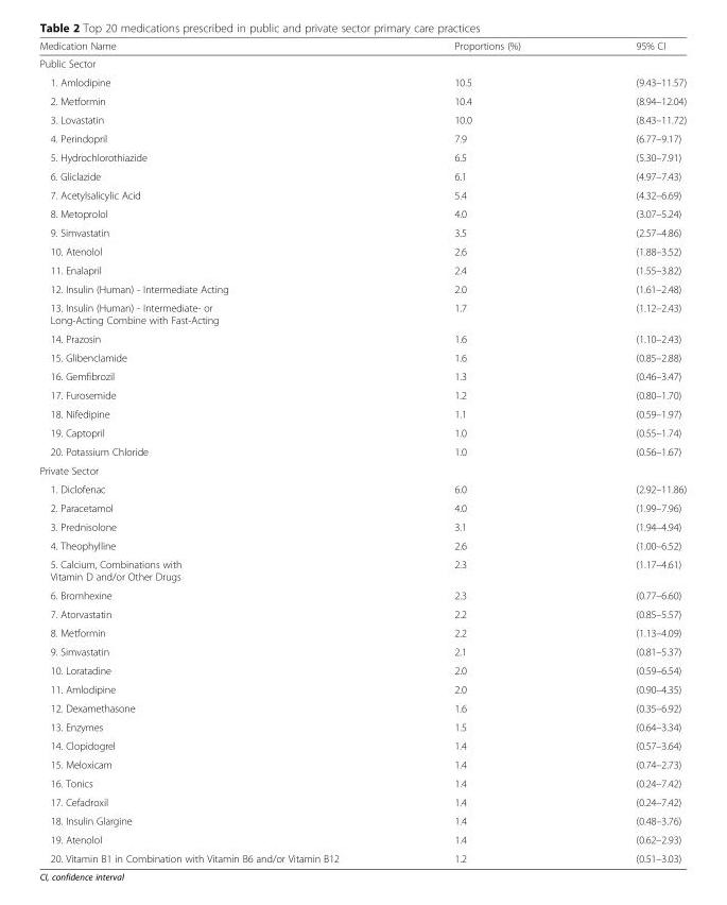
<table><thead><tr><td>Medication Name</td><td>Proportions (%)</td><td>95% CI</td></tr></thead><tbody><tr><td colspan="3">Public Sector</td></tr><tr><td>1. Amlodipine</td><td>10.5</td><td>(9.43–11.57)</td></tr><tr><td>2. Metformin</td><td>10.4</td><td>(8.94–12.04)</td></tr><tr><td>3. Lovastatin</td><td>10.0</td><td>(8.43–11.72)</td></tr><tr><td>4. Perindopril</td><td>7.9</td><td>(6.77–9.17)</td></tr><tr><td>5. Hydrochlorothiazide</td><td>6.5</td><td>(5.30–7.91)</td></tr><tr><td>6. Gliclazide</td><td>6.1</td><td>(4.97–7.43)</td></tr><tr><td>7. Acetylsalicylic Acid</td><td>5.4</td><td>(4.32–6.69)</td></tr><tr><td>8. Metoprolol</td><td>4.0</td><td>(3.07–5.24)</td></tr><tr><td>9. Simvastatin</td><td>3.5</td><td>(2.57–4.86)</td></tr><tr><td>10. Atenolol</td><td>2.6</td><td>(1.88–3.52)</td></tr><tr><td>11. Enalapril</td><td>2.4</td><td>(1.55–3.82)</td></tr><tr><td>12. Insulin (Human) - Intermediate Acting</td><td>2.0</td><td>(1.61–2.48)</td></tr><tr><td>13. Insulin (Human) - Intermediate- or Long-Acting Combine with Fast-Acting</td><td>1.7</td><td>(1.12–2.43)</td></tr><tr><td>14. Prazosin</td><td>1.6</td><td>(1.10–2.43)</td></tr><tr><td>15. Glibenclamide</td><td>1.6</td><td>(0.85–2.88)</td></tr><tr><td>16. Gemfibrozil</td><td>1.3</td><td>(0.46–3.47)</td></tr><tr><td>17. Furosemide</td><td>1.2</td><td>(0.80–1.70)</td></tr><tr><td>18. Nifedipine</td><td>1.1</td><td>(0.59–1.97)</td></tr><tr><td>19. Captopril</td><td>1.0</td><td>(0.55–1.74)</td></tr><tr><td>20. Potassium Chloride</td><td>1.0</td><td>(0.56–1.67)</td></tr><tr><td colspan="3">Private Sector</td></tr><tr><td>1. Diclofenac</td><td>6.0</td><td>(2.92–11.86)</td></tr><tr><td>2. Paracetamol</td><td>4.0</td><td>(1.99–7.96)</td></tr><tr><td>3. Prednisolone</td><td>3.1</td><td>(1.94–4.94)</td></tr><tr><td>4. Theophylline</td><td>2.6</td><td>(1.00–6.52)</td></tr><tr><td>5. Calcium, Combinations with Vitamin D and/or Other Drugs</td><td>2.3</td><td>(1.17–4.61)</td></tr><tr><td>6. Bromhexine</td><td>2.3</td><td>(0.77–6.60)</td></tr><tr><td>7. Atorvastatin</td><td>2.2</td><td>(0.85–5.57)</td></tr><tr><td>8. Metformin</td><td>2.2</td><td>(1.13–4.09)</td></tr><tr><td>9. Simvastatin</td><td>2.1</td><td>(0.81–5.37)</td></tr><tr><td>10. Loratadine</td><td>2.0</td><td>(0.59–6.54)</td></tr><tr><td>11. Amlodipine</td><td>2.0</td><td>(0.90–4.35)</td></tr><tr><td>12. Dexamethasone</td><td>1.6</td><td>(0.35–6.92)</td></tr><tr><td>13. Enzymes</td><td>1.5</td><td>(0.64–3.34)</td></tr><tr><td>14. Clopidogrel</td><td>1.4</td><td>(0.57–3.64)</td></tr><tr><td>15. Meloxicam</td><td>1.4</td><td>(0.74–2.73)</td></tr><tr><td>16. Tonics</td><td>1.4</td><td>(0.24–7.42)</td></tr><tr><td>17. Cefadroxil</td><td>1.4</td><td>(0.24–7.42)</td></tr><tr><td>18. Insulin Glargine</td><td>1.4</td><td>(0.48–3.76)</td></tr><tr><td>19. Atenolol</td><td>1.4</td><td>(0.62–2.93)</td></tr><tr><td>20. Vitamin B1 in Combination with Vitamin B6 and/or Vitamin B12</td><td>1.2</td><td>(0.51–3.03)</td></tr></tbody></table>